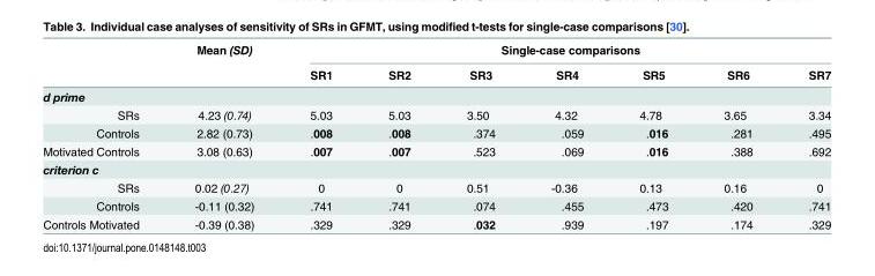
<table><thead><tr><td rowspan="2"></td><td rowspan="2">Mean (SD)</td><td colspan="7">Single-case comparisons</td></tr><tr><td>SR1</td><td>SR2</td><td>SR3</td><td>SR4</td><td>SR5</td><td>SR6</td><td>SR7</td></tr></thead><tbody><tr><td colspan="9">d prime</td></tr><tr><td>SRs</td><td>4.23 (0.74)</td><td>5.03</td><td>5.03</td><td>3.50</td><td>4.32</td><td>4.78</td><td>3.65</td><td>3.34</td></tr><tr><td>Controls</td><td>2.82 (0.73)</td><td>.008</td><td>.008</td><td>.374</td><td>.059</td><td>.016</td><td>.281</td><td>.495</td></tr><tr><td>Motivated Controls</td><td>3.08 (0.63)</td><td>.007</td><td>.007</td><td>.523</td><td>.069</td><td>.016</td><td>.388</td><td>.692</td></tr><tr><td colspan="9">criterion c</td></tr><tr><td>SRs</td><td>0.02 (0.27)</td><td>0</td><td>0</td><td>0.51</td><td>-0.36</td><td>0.13</td><td>0.16</td><td>0</td></tr><tr><td>Controls</td><td>-0.11 (0.32)</td><td>.741</td><td>.741</td><td>.074</td><td>.455</td><td>.473</td><td>.420</td><td>.741</td></tr><tr><td>Controls Motivated</td><td>-0.39 (0.38)</td><td>.329</td><td>.329</td><td>.032</td><td>.939</td><td>.197</td><td>.174</td><td>.329</td></tr></tbody></table>